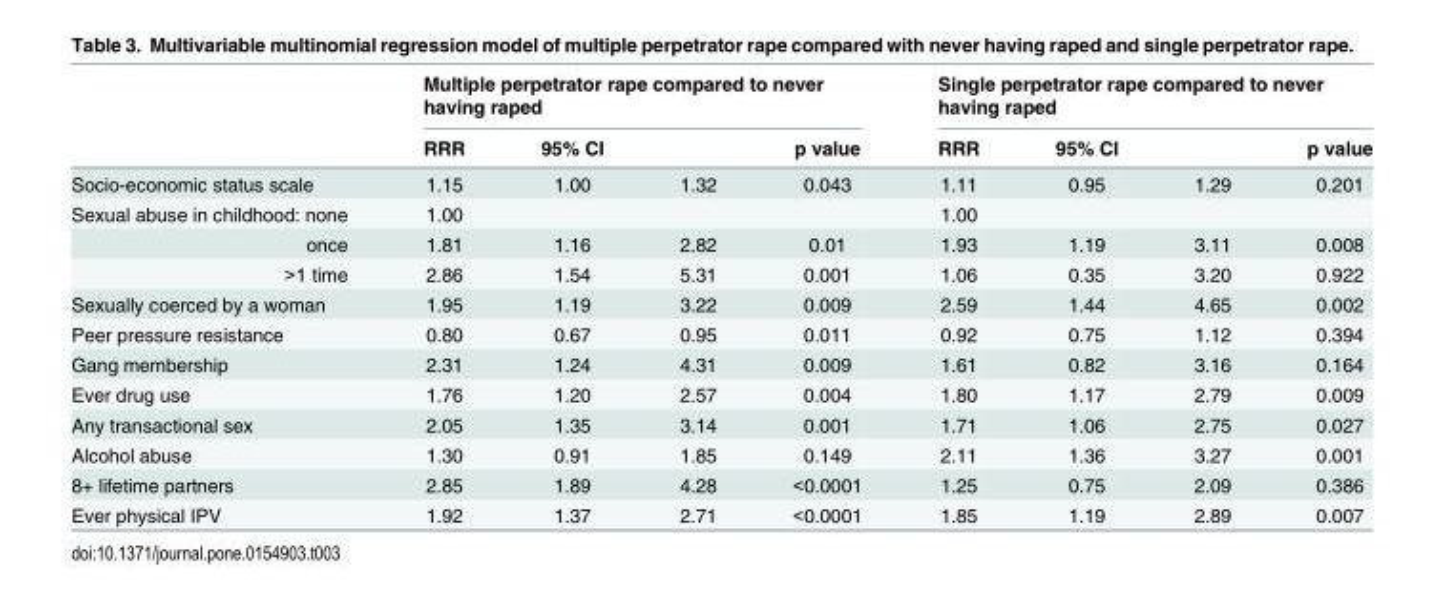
<table><thead><tr><td rowspan="2"></td><td colspan="4">Multiple perpetrator rape compared to never having raped</td><td colspan="4">Single perpetrator rape compared to never having raped</td></tr><tr><td>RRR</td><td>95% CI</td><td></td><td>p value</td><td>RRR</td><td>95% CI</td><td></td><td>p value</td></tr></thead><tbody><tr><td>Socio-economic status scale</td><td>1.15</td><td>1.00</td><td>1.32</td><td>0.043</td><td>1.11</td><td>0.95</td><td>1.29</td><td>0.201</td></tr><tr><td>Sexual abuse in childhood: none</td><td>1.00</td><td></td><td></td><td></td><td>1.00</td><td></td><td></td><td></td></tr><tr><td>once</td><td>1.81</td><td>1.16</td><td>2.82</td><td>0.01</td><td>1.93</td><td>1.19</td><td>3.11</td><td>0.008</td></tr><tr><td>&gt;1 time</td><td>2.86</td><td>1.54</td><td>5.31</td><td>0.001</td><td>1.06</td><td>0.35</td><td>3.20</td><td>0.922</td></tr><tr><td>Sexually coerced by a woman</td><td>1.95</td><td>1.19</td><td>3.22</td><td>0.009</td><td>2.59</td><td>1.44</td><td>4.65</td><td>0.002</td></tr><tr><td>Peer pressure resistance</td><td>0.80</td><td>0.67</td><td>0.95</td><td>0.011</td><td>0.92</td><td>0.75</td><td>1.12</td><td>0.394</td></tr><tr><td>Gang membership</td><td>2.31</td><td>1.24</td><td>4.31</td><td>0.009</td><td>1.61</td><td>0.82</td><td>3.16</td><td>0.164</td></tr><tr><td>Ever drug use</td><td>1.76</td><td>1.20</td><td>2.57</td><td>0.004</td><td>1.80</td><td>1.17</td><td>2.79</td><td>0.009</td></tr><tr><td>Any transactional sex</td><td>2.05</td><td>1.35</td><td>3.14</td><td>0.001</td><td>1.71</td><td>1.06</td><td>2.75</td><td>0.027</td></tr><tr><td>Alcohol abuse</td><td>1.30</td><td>0.91</td><td>1.85</td><td>0.149</td><td>2.11</td><td>1.36</td><td>3.27</td><td>0.001</td></tr><tr><td>8+ lifetime partners</td><td>2.85</td><td>1.89</td><td>4.28</td><td>&lt;0.0001</td><td>1.25</td><td>0.75</td><td>2.09</td><td>0.386</td></tr><tr><td>Ever physical IPV</td><td>1.92</td><td>1.37</td><td>2.71</td><td>&lt;0.0001</td><td>1.85</td><td>1.19</td><td>2.89</td><td>0.007</td></tr></tbody></table>